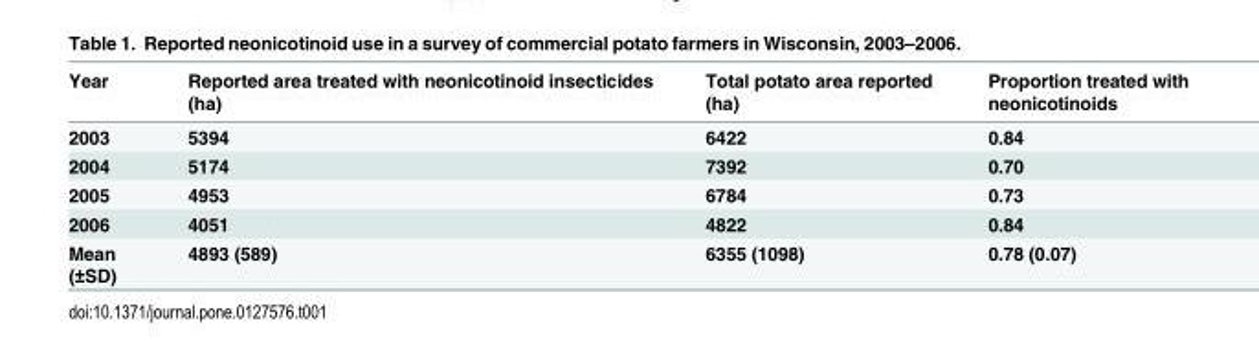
<table><thead><tr><td>Year</td><td>Reported area treated with neonicotinoid insecticides (ha)</td><td>Total potato area reported (ha)</td><td>Proportion treated with neonicotinoids</td></tr></thead><tbody><tr><td>2003</td><td>5394</td><td>6422</td><td>0.84</td></tr><tr><td>2004</td><td>5174</td><td>7392</td><td>0.70</td></tr><tr><td>2005</td><td>4953</td><td>6784</td><td>0.73</td></tr><tr><td>2006</td><td>4051</td><td>4822</td><td>0.84</td></tr><tr><td>Mean (±SD)</td><td>4893 (589)</td><td>6355 (1098)</td><td>0.78 (0.07)</td></tr></tbody></table>